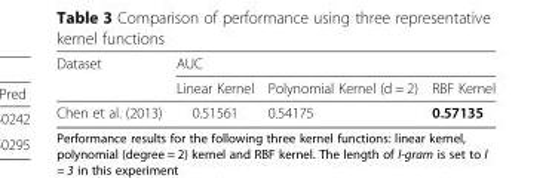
<table><thead><tr><td rowspan="2">Dataset</td><td colspan="3">AUC</td></tr><tr><td>Linear Kernel</td><td>Polynomial Kernel (d = 2)</td><td>RBF Kernel</td></tr></thead><tbody><tr><td>Chen et al. (2013)</td><td>0.51561</td><td>0.54175</td><td>0.57135</td></tr></tbody></table>